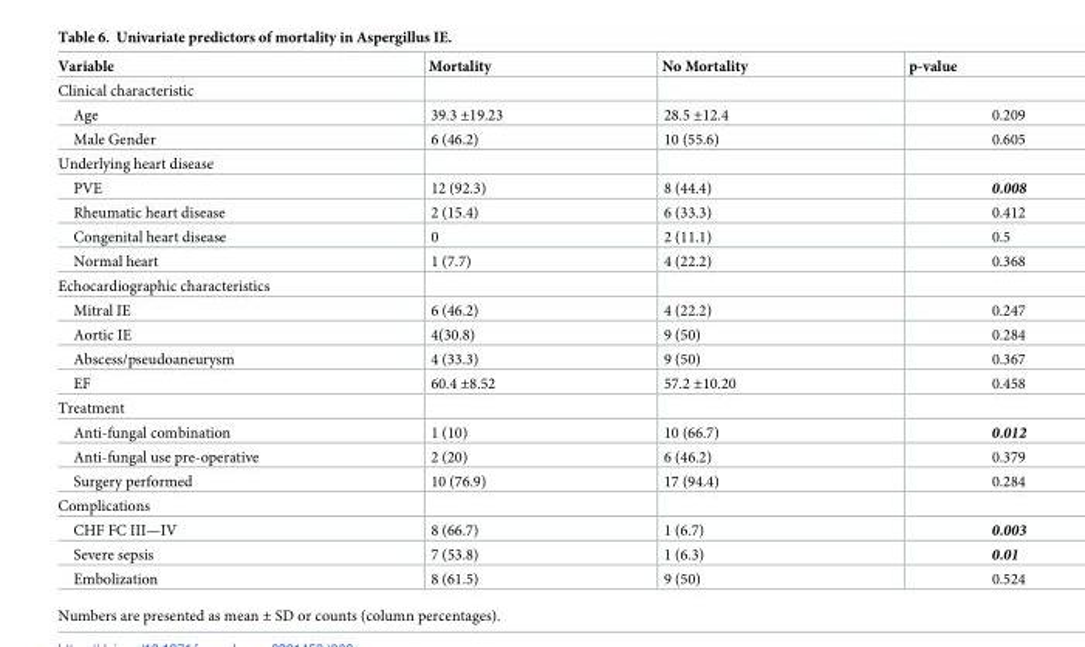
<table><thead><tr><td>Variable</td><td>Mortality</td><td>No Mortality</td><td>p-value</td></tr></thead><tbody><tr><td colspan="4">Clinical characteristic</td></tr><tr><td>Age</td><td>39.3 ±19.23</td><td>28.5 ±12.4</td><td>0.209</td></tr><tr><td>Male Gender</td><td>6 (46.2)</td><td>10 (55.6)</td><td>0.605</td></tr><tr><td colspan="4">Underlying heart disease</td></tr><tr><td>PVE</td><td>12 (92.3)</td><td>8 (44.4)</td><td>0.008</td></tr><tr><td>Rheumatic heart disease</td><td>2 (15.4)</td><td>6 (33.3)</td><td>0.412</td></tr><tr><td>Congenital heart disease</td><td>0</td><td>2 (11.1)</td><td>0.5</td></tr><tr><td>Normal heart</td><td>1 (7.7)</td><td>4 (22.2)</td><td>0.368</td></tr><tr><td colspan="4">Echocardiographic characteristics</td></tr><tr><td>Mitral IE</td><td>6 (46.2)</td><td>4 (22.2)</td><td>0.247</td></tr><tr><td>Aortic IE</td><td>4(30.8)</td><td>9 (50)</td><td>0.284</td></tr><tr><td>Abscess/pseudoaneurysm</td><td>4 (33.3)</td><td>9 (50)</td><td>0.367</td></tr><tr><td>EF</td><td>60.4 ±8.52</td><td>57.2 ±10.20</td><td>0.458</td></tr><tr><td colspan="4">Treatment</td></tr><tr><td>Anti-fungal combination</td><td>1 (10)</td><td>10 (66.7)</td><td>0.012</td></tr><tr><td>Anti-fungal use pre-operative</td><td>2 (20)</td><td>6 (46.2)</td><td>0.379</td></tr><tr><td>Surgery performed</td><td>10 (76.9)</td><td>17 (94.4)</td><td>0.284</td></tr><tr><td colspan="4">Complications</td></tr><tr><td>CHF FC III—IV</td><td>8 (66.7)</td><td>1 (6.7)</td><td>0.003</td></tr><tr><td>Severe sepsis</td><td>7 (53.8)</td><td>1 (6.3)</td><td>0.01</td></tr><tr><td>Embolization</td><td>8 (61.5)</td><td>9 (50)</td><td>0.524</td></tr></tbody></table>